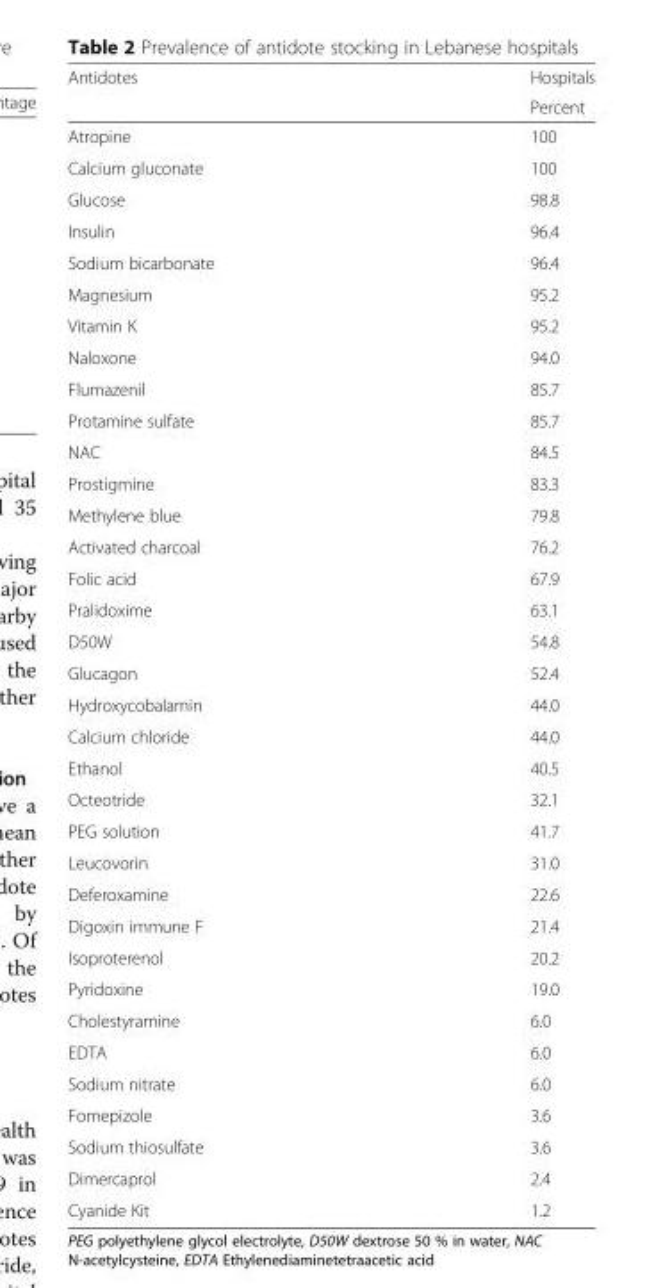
<table><thead><tr><td rowspan="2">Antidotes</td><td rowspan="2">Hospitals Percent</td></tr><tr></tr></thead><tbody><tr><td>Atropine</td><td>100</td></tr><tr><td>Calcium gluconate</td><td>100</td></tr><tr><td>Glucose</td><td>98.8</td></tr><tr><td>Insulin</td><td>96.4</td></tr><tr><td>Sodium bicarbonate</td><td>96.4</td></tr><tr><td>Magnesium</td><td>95.2</td></tr><tr><td>Vitamin K</td><td>95.2</td></tr><tr><td>Naloxone</td><td>94.0</td></tr><tr><td>Flumazenil</td><td>85.7</td></tr><tr><td>Protamine sulfate</td><td>85.7</td></tr><tr><td>NAC</td><td>84.5</td></tr><tr><td>Prostigmine</td><td>83.3</td></tr><tr><td>Methylene blue</td><td>79.8</td></tr><tr><td>Activated charcoal</td><td>76.2</td></tr><tr><td>Folic acid</td><td>67.9</td></tr><tr><td>Pralidoxime</td><td>63.1</td></tr><tr><td>D50W</td><td>54.8</td></tr><tr><td>Glucagon</td><td>52.4</td></tr><tr><td>Hydroxycobalamin</td><td>44.0</td></tr><tr><td>Calcium chloride</td><td>44.0</td></tr><tr><td>Ethanol</td><td>40.5</td></tr><tr><td>Octeotride</td><td>32.1</td></tr><tr><td>PEG solution</td><td>41.7</td></tr><tr><td>Leucovorin</td><td>31.0</td></tr><tr><td>Deferoxamine</td><td>22.6</td></tr><tr><td>Digoxin immune F</td><td>21.4</td></tr><tr><td>Isoproterenol</td><td>20.2</td></tr><tr><td>Pyridoxine</td><td>19.0</td></tr><tr><td>Cholestyramine</td><td>6.0</td></tr><tr><td>EDTA</td><td>6.0</td></tr><tr><td>Sodium nitrate</td><td>6.0</td></tr><tr><td>Fomepizole</td><td>3.6</td></tr><tr><td>Sodium thiosulfate</td><td>3.6</td></tr><tr><td>Dimercaprol</td><td>2.4</td></tr><tr><td>Cyanide Kit</td><td>1.2</td></tr></tbody></table>